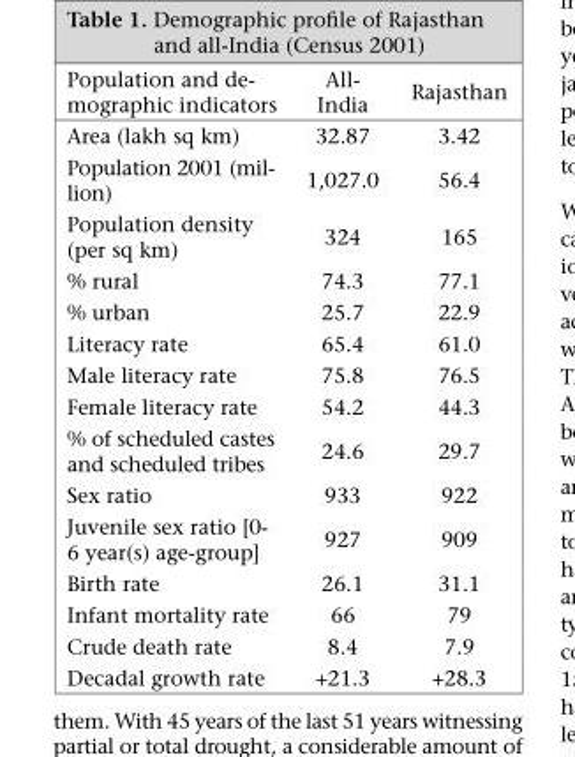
<table><thead><tr><td>Population and de- mographic indicators</td><td>All- India</td><td>Rajasthan</td></tr></thead><tbody><tr><td>Area (lakh sq km)</td><td>32.87</td><td>3.42</td></tr><tr><td>Population 2001 (mil- lion)</td><td>1,027.0</td><td>56.4</td></tr><tr><td>Population density (per sq km)</td><td>324</td><td>165</td></tr><tr><td>% rural</td><td>74.3</td><td>77.1</td></tr><tr><td>% urban</td><td>25.7</td><td>22.9</td></tr><tr><td>Literacy rate</td><td>65.4</td><td>61.0</td></tr><tr><td>Male literacy rate</td><td>75.8</td><td>76.5</td></tr><tr><td>Female literacy rate</td><td>54.2</td><td>44.3</td></tr><tr><td>% of scheduled castes and scheduled tribes</td><td>24.6</td><td>29.7</td></tr><tr><td>Sex ratio</td><td>933</td><td>922</td></tr><tr><td>Juvenile sex ratio [0- 6 year(s) age-group]</td><td>927</td><td>909</td></tr><tr><td>Birth rate</td><td>26.1</td><td>31.1</td></tr><tr><td>Infant mortality rate</td><td>66</td><td>79</td></tr><tr><td>Crude death rate</td><td>8.4</td><td>7.9</td></tr><tr><td>Decadal growth rate</td><td>+21.3</td><td>+28.3</td></tr></tbody></table>